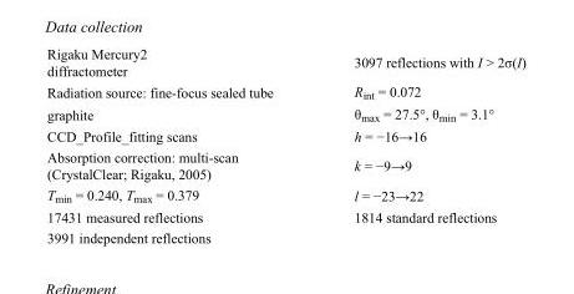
<table><tbody><tr><td>Rigaku Mercury2 diffractometer</td><td>3097 reflections with I &gt; 2σ(I)</td></tr><tr><td>Radiation source: fine-focus sealed tube</td><td>R<sub>int</sub> = 0.072</td></tr><tr><td>graphite</td><td>θ<sub>max</sub> = 27.5°, θ<sub>min</sub> = 3.1°</td></tr><tr><td>CCD_Profile_fitting scans</td><td>h = −16→16</td></tr><tr><td>Absorption correction: multi-scan (CrystalClear; Rigaku, 2005)</td><td>k = −9→9</td></tr><tr><td>T<sub>min</sub> = 0.240, T<sub>max</sub> = 0.379</td><td>l = −23→22</td></tr><tr><td>17431 measured reflections</td><td>1814 standard reflections</td></tr><tr><td>3991 independent reflections</td><td></td></tr></tbody></table>